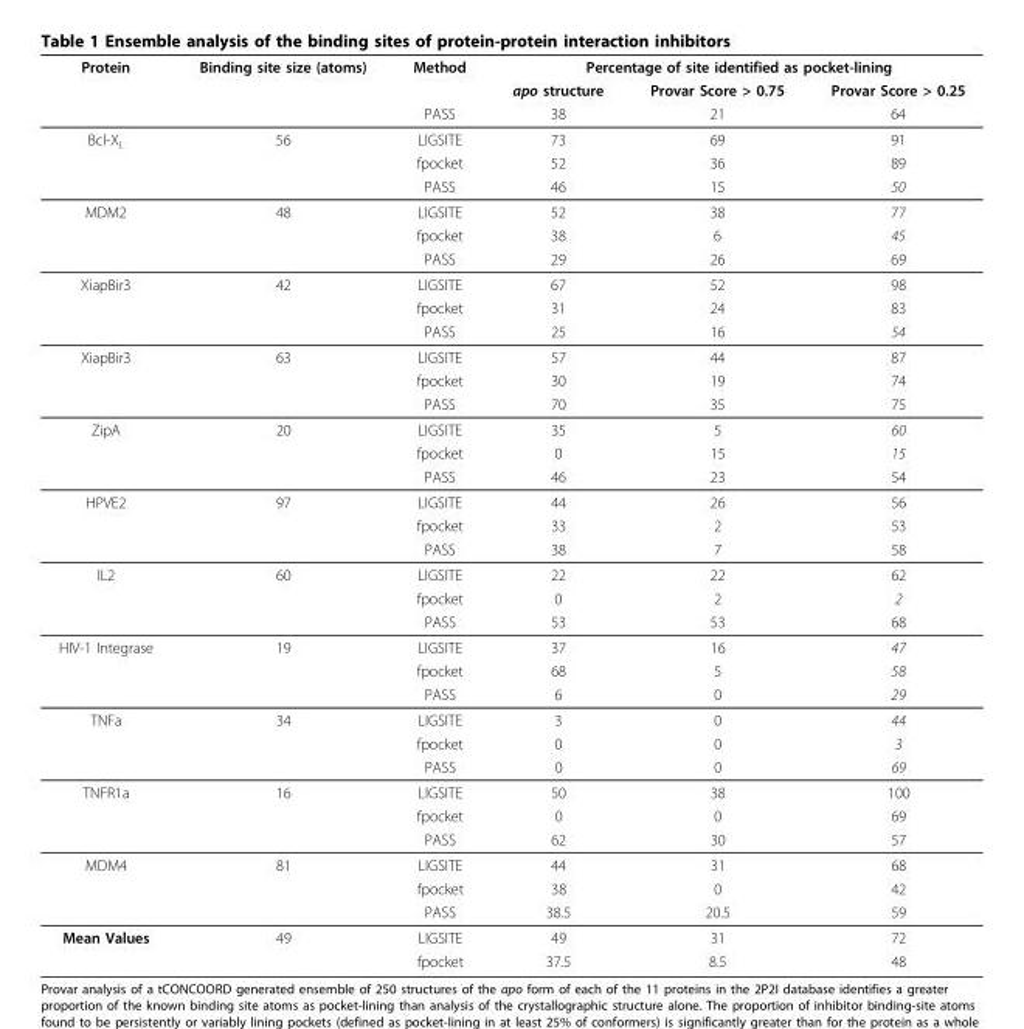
<table><thead><tr><td rowspan="3">Protein</td><td rowspan="3">Binding site size (atoms)</td><td rowspan="3">Method PASS</td><td colspan="3">Percentage of site identified as pocket-lining</td></tr><tr><td rowspan="2">apo structure 38</td><td rowspan="2">Provar Score &gt; 0.75 21</td><td rowspan="2">Provar Score &gt; 0.25 64</td></tr><tr></tr></thead><tbody><tr><td rowspan="3">Bcl-X<sub>L</sub></td><td>56</td><td>LIGSITE</td><td>73</td><td>69</td><td>91</td></tr><tr><td></td><td>fpocket</td><td>52</td><td>36</td><td>89</td></tr><tr><td></td><td>PASS</td><td>46</td><td>15</td><td>50</td></tr><tr><td rowspan="3">MDM2</td><td>48</td><td>LIGSITE</td><td>52</td><td>38</td><td>77</td></tr><tr><td></td><td>fpocket</td><td>38</td><td>6</td><td>45</td></tr><tr><td></td><td>PASS</td><td>29</td><td>26</td><td>69</td></tr><tr><td rowspan="3">XiapBir3</td><td>42</td><td>LIGSITE</td><td>67</td><td>52</td><td>98</td></tr><tr><td></td><td>fpocket</td><td>31</td><td>24</td><td>83</td></tr><tr><td></td><td>PASS</td><td>25</td><td>16</td><td>54</td></tr><tr><td rowspan="3">XiapBir3</td><td>63</td><td>LIGSITE</td><td>57</td><td>44</td><td>87</td></tr><tr><td></td><td>fpocket</td><td>30</td><td>19</td><td>74</td></tr><tr><td></td><td>PASS</td><td>70</td><td>35</td><td>75</td></tr><tr><td rowspan="3">ZipA</td><td>20</td><td>LIGSITE</td><td>35</td><td>5</td><td>60</td></tr><tr><td></td><td>fpocket</td><td>0</td><td>15</td><td>15</td></tr><tr><td></td><td>PASS</td><td>46</td><td>23</td><td>54</td></tr><tr><td rowspan="3">HPVE2</td><td>97</td><td>LIGSITE</td><td>44</td><td>26</td><td>56</td></tr><tr><td></td><td>fpocket</td><td>33</td><td>2</td><td>53</td></tr><tr><td></td><td>PASS</td><td>38</td><td>7</td><td>58</td></tr><tr><td rowspan="3">IL2</td><td>60</td><td>LIGSITE</td><td>22</td><td>22</td><td>62</td></tr><tr><td></td><td>fpocket</td><td>0</td><td>2</td><td>2</td></tr><tr><td></td><td>PASS</td><td>53</td><td>53</td><td>68</td></tr><tr><td rowspan="3">HIV-1 Integrase</td><td>19</td><td>LIGSITE</td><td>37</td><td>16</td><td>47</td></tr><tr><td></td><td>fpocket</td><td>68</td><td>5</td><td>58</td></tr><tr><td></td><td>PASS</td><td>6</td><td>0</td><td>29</td></tr><tr><td rowspan="3">TNFa</td><td>34</td><td>LIGSITE</td><td>3</td><td>0</td><td>44</td></tr><tr><td></td><td>fpocket</td><td>0</td><td>0</td><td>3</td></tr><tr><td></td><td>PASS</td><td>0</td><td>0</td><td>69</td></tr><tr><td rowspan="3">TNFR1a</td><td>16</td><td>LIGSITE</td><td>50</td><td>38</td><td>100</td></tr><tr><td></td><td>fpocket</td><td>0</td><td>0</td><td>69</td></tr><tr><td></td><td>PASS</td><td>62</td><td>30</td><td>57</td></tr><tr><td rowspan="3">MDM4</td><td>81</td><td>LIGSITE</td><td>44</td><td>31</td><td>68</td></tr><tr><td></td><td>fpocket</td><td>38</td><td>0</td><td>42</td></tr><tr><td></td><td>PASS</td><td>38.5</td><td>20.5</td><td>59</td></tr><tr><td rowspan="2">Mean Values</td><td>49</td><td>LIGSITE</td><td>49</td><td>31</td><td>72</td></tr><tr><td></td><td>fpocket</td><td>37.5</td><td>8.5</td><td>48</td></tr></tbody></table>